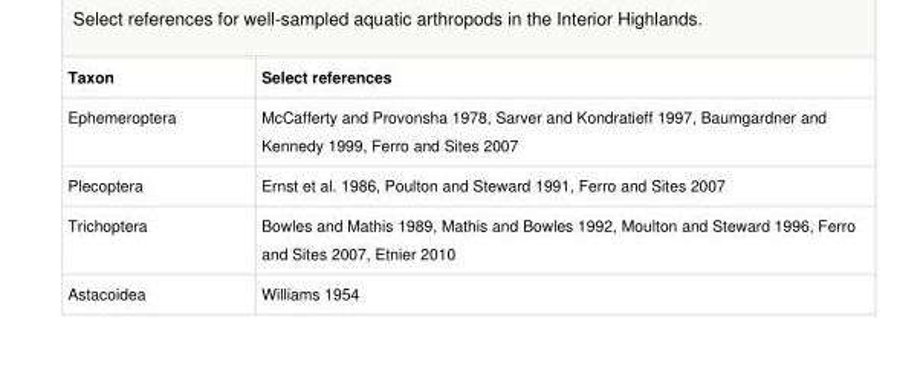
<table><tbody><tr><td>Taxon</td><td>Select references</td></tr><tr><td>Ephemeroptera</td><td>McCafferty and Provonsha 1978, Sarver and Kondratieff 1997, Baumgardner and Kennedy 1999, Ferro and Sites 2007</td></tr><tr><td>Plecoptera</td><td>Ernst et al. 1986, Poulton and Steward 1991, Ferro and Sites 2007</td></tr><tr><td>Trichoptera</td><td>Bowles and Mathis 1989, Mathis and Bowles 1992, Moulton and Steward 1996, Ferro and Sites 2007, Etnier 2010</td></tr><tr><td>Astacoidea</td><td>Williams 1954</td></tr></tbody></table>